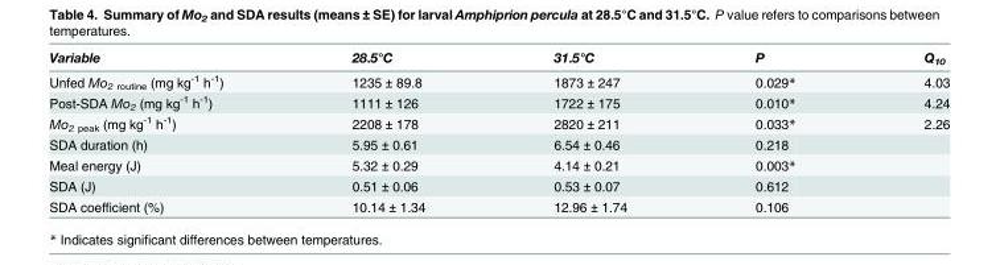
<table><thead><tr><td>Variable</td><td>28.5°C</td><td>31.5°C</td><td>P</td><td>Q<sub>10</sub></td></tr></thead><tbody><tr><td>Unfed Mo<sub>2 routine</sub> (mg kg<sup>-1</sup> h<sup>-1</sup>)</td><td>1235 ± 89.8</td><td>1873 ± 247</td><td>0.029*</td><td>4.03</td></tr><tr><td>Post-SDA Mo<sub>2</sub> (mg kg<sup>-1</sup> h<sup>-1</sup>)</td><td>1111 ± 126</td><td>1722 ± 175</td><td>0.010*</td><td>4.24</td></tr><tr><td>Mo<sub>2 peak</sub> (mg kg<sup>-1</sup> h<sup>-1</sup>)</td><td>2208 ± 178</td><td>2820 ± 211</td><td>0.033*</td><td>2.26</td></tr><tr><td>SDA duration (h)</td><td>5.95 ± 0.61</td><td>6.54 ± 0.46</td><td>0.218</td><td></td></tr><tr><td>Meal energy (J)</td><td>5.32 ± 0.29</td><td>4.14 ± 0.21</td><td>0.003*</td><td></td></tr><tr><td>SDA (J)</td><td>0.51 ± 0.06</td><td>0.53 ± 0.07</td><td>0.612</td><td></td></tr><tr><td>SDA coefficient (%)</td><td>10.14 ± 1.34</td><td>12.96 ± 1.74</td><td>0.106</td><td></td></tr></tbody></table>